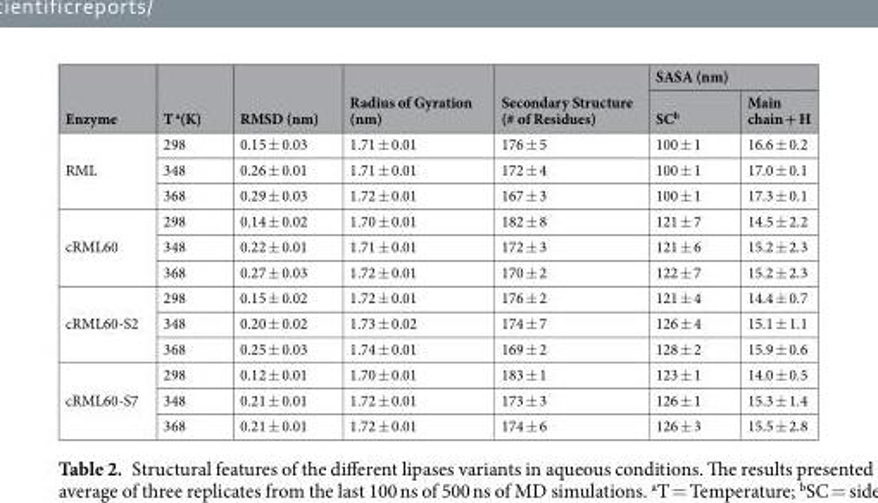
<table><thead><tr><td rowspan="2">Enzyme</td><td rowspan="2">T <sup>a</sup>(K)</td><td rowspan="2">RMSD (nm)</td><td rowspan="2">Radius of Gyration (nm)</td><td rowspan="2">Secondary Structure (# of Residues)</td><td colspan="2">SASA (nm)</td></tr><tr><td>SC<sup>b</sup></td><td>Main chain + H</td></tr></thead><tbody><tr><td rowspan="3">RML</td><td>298</td><td>0.15 ± 0.03</td><td>1.71 ± 0.01</td><td>176 ± 5</td><td>100 ± 1</td><td>16.6 ± 0.2</td></tr><tr><td>348</td><td>0.26 ± 0.01</td><td>1.71 ± 0.01</td><td>172 ± 4</td><td>100 ± 1</td><td>17.0 ± 0.1</td></tr><tr><td>368</td><td>0.29 ± 0.03</td><td>1.72 ± 0.01</td><td>167 ± 3</td><td>100 ± 1</td><td>17.3 ± 0.1</td></tr><tr><td rowspan="3">cRML60</td><td>298</td><td>0.14 ± 0.02</td><td>1.70 ± 0.01</td><td>182 ± 8</td><td>121 ± 7</td><td>14.5 ± 2.2</td></tr><tr><td>348</td><td>0.22 ± 0.01</td><td>1.71 ± 0.01</td><td>172 ± 3</td><td>121 ± 6</td><td>15.2 ± 2.3</td></tr><tr><td>368</td><td>0.27 ± 0.03</td><td>1.72 ± 0.01</td><td>170 ± 2</td><td>122 ± 7</td><td>15.2 ± 2.3</td></tr><tr><td rowspan="3">cRML60-S2</td><td>298</td><td>0.15 ± 0.02</td><td>1.72 ± 0.01</td><td>176 ± 2</td><td>121 ± 4</td><td>14.4 ± 0.7</td></tr><tr><td>348</td><td>0.20 ± 0.02</td><td>1.73 ± 0.02</td><td>174 ± 7</td><td>126 ± 4</td><td>15.1 ± 1.1</td></tr><tr><td>368</td><td>0.25 ± 0.03</td><td>1.74 ± 0.01</td><td>169 ± 2</td><td>128 ± 2</td><td>15.9 ± 0.6</td></tr><tr><td rowspan="3">cRML60-S7</td><td>298</td><td>0.12 ± 0.01</td><td>1.70 ± 0.01</td><td>183 ± 1</td><td>123 ± 1</td><td>14.0 ± 0.5</td></tr><tr><td>348</td><td>0.21 ± 0.01</td><td>1.72 ± 0.01</td><td>173 ± 3</td><td>126 ± 1</td><td>15.3 ± 1.4</td></tr><tr><td>368</td><td>0.21 ± 0.01</td><td>1.72 ± 0.01</td><td>174 ± 6</td><td>126 ± 3</td><td>15.5 ± 2.8</td></tr></tbody></table>